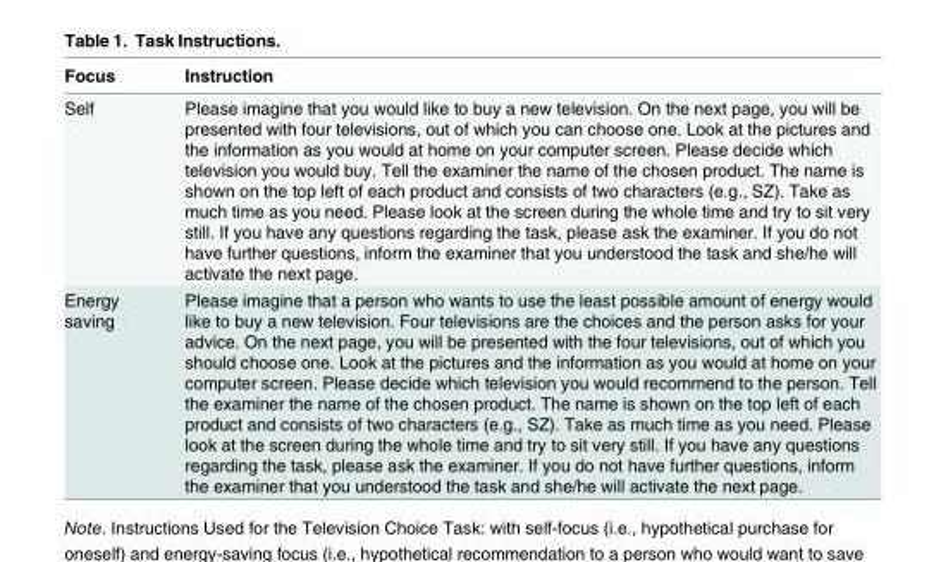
<table><thead><tr><td>Focus</td><td>Instruction</td></tr></thead><tbody><tr><td>Self</td><td>Please imagine that you would like to buy a new television. On the next page, you will be presented with four televisions, out of which you can choose one. Look at the pictures and the information as you would at home on your computer screen. Please decide which television you would buy. Tell the examiner the name of the chosen product. The name is shown on the top left of each product and consists of two characters (e.g., SZ). Take as much time as you need. Please look at the screen during the whole time and try to sit very still. If you have any questions regarding the task, please ask the examiner. If you do not have further questions, inform the examiner that you understood the task and she/he will activate the next page.</td></tr><tr><td>Energy saving</td><td>Please imagine that a person who wants to use the least possible amount of energy would like to buy a new television. Four televisions are the choices and the person asks for your advice. On the next page, you will be presented with the four televisions, out of which you should choose one. Look at the pictures and the information as you would at home on your computer screen. Please decide which television you would recommend to the person. Tell the examiner the name of the chosen product. The name is shown on the top left of each product and consists of two characters (e.g., SZ). Take as much time as you need. Please look at the screen during the whole time and try to sit very still. If you have any questions regarding the task, please ask the examiner. If you do not have further questions, inform the examiner that you understood the task and she/he will activate the next page.</td></tr></tbody></table>